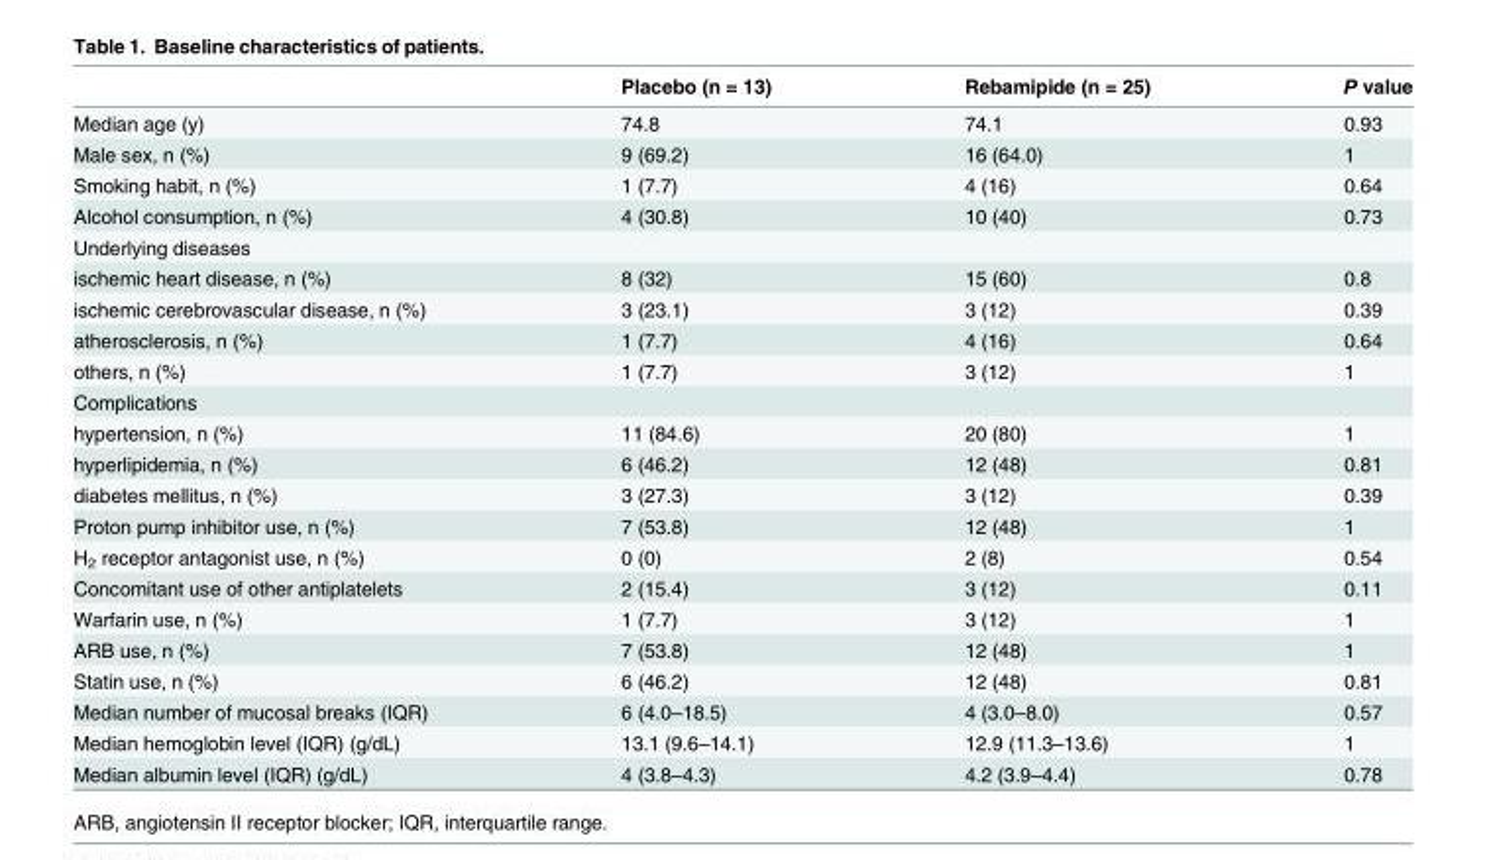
<table><thead><tr><td></td><td>Placebo (n = 13)</td><td>Rebamipide (n = 25)</td><td>P value</td></tr></thead><tbody><tr><td>Median age (y)</td><td>74.8</td><td>74.1</td><td>0.93</td></tr><tr><td>Male sex, n (%)</td><td>9 (69.2)</td><td>16 (64.0)</td><td>1</td></tr><tr><td>Smoking habit, n (%)</td><td>1 (7.7)</td><td>4 (16)</td><td>0.64</td></tr><tr><td>Alcohol consumption, n (%)</td><td>4 (30.8)</td><td>10 (40)</td><td>0.73</td></tr><tr><td colspan="4">Underlying diseases</td></tr><tr><td>ischemic heart disease, n (%)</td><td>8 (32)</td><td>15 (60)</td><td>0.8</td></tr><tr><td>ischemic cerebrovascular disease, n (%)</td><td>3 (23.1)</td><td>3 (12)</td><td>0.39</td></tr><tr><td>atherosclerosis, n (%)</td><td>1 (7.7)</td><td>4 (16)</td><td>0.64</td></tr><tr><td>others, n (%)</td><td>1 (7.7)</td><td>3 (12)</td><td>1</td></tr><tr><td colspan="4">Complications</td></tr><tr><td>hypertension, n (%)</td><td>11 (84.6)</td><td>20 (80)</td><td>1</td></tr><tr><td>hyperlipidemia, n (%)</td><td>6 (46.2)</td><td>12 (48)</td><td>0.81</td></tr><tr><td>diabetes mellitus, n (%)</td><td>3 (27.3)</td><td>3 (12)</td><td>0.39</td></tr><tr><td>Proton pump inhibitor use, n (%)</td><td>7 (53.8)</td><td>12 (48)</td><td>1</td></tr><tr><td>H<sub>2</sub> receptor antagonist use, n (%)</td><td>0 (0)</td><td>2 (8)</td><td>0.54</td></tr><tr><td>Concomitant use of other antiplatelets</td><td>2 (15.4)</td><td>3 (12)</td><td>0.11</td></tr><tr><td>Warfarin use, n (%)</td><td>1 (7.7)</td><td>3 (12)</td><td>1</td></tr><tr><td>ARB use, n (%)</td><td>7 (53.8)</td><td>12 (48)</td><td>1</td></tr><tr><td>Statin use, n (%)</td><td>6 (46.2)</td><td>12 (48)</td><td>0.81</td></tr><tr><td>Median number of mucosal breaks (IQR)</td><td>6 (4.0–18.5)</td><td>4 (3.0–8.0)</td><td>0.57</td></tr><tr><td>Median hemoglobin level (IQR) (g/dL)</td><td>13.1 (9.6–14.1)</td><td>12.9 (11.3–13.6)</td><td>1</td></tr><tr><td>Median albumin level (IQR) (g/dL)</td><td>4 (3.8–4.3)</td><td>4.2 (3.9–4.4)</td><td>0.78</td></tr></tbody></table>